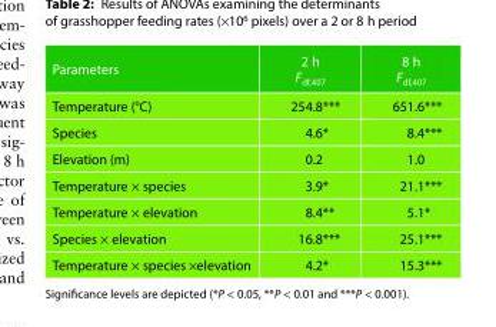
<table><thead><tr><td>Parameters</td><td>2 h F<sub>df,407</sub></td><td>8 h F<sub>df,407</sub></td></tr></thead><tbody><tr><td>Temperature (°C)</td><td>254.8***</td><td>651.6***</td></tr><tr><td>Species</td><td>4.6*</td><td>8.4***</td></tr><tr><td>Elevation (m)</td><td>0.2</td><td>1.0</td></tr><tr><td>Temperature × species</td><td>3.9*</td><td>21.1***</td></tr><tr><td>Temperature × elevation</td><td>8.4**</td><td>5.1*</td></tr><tr><td>Species × elevation</td><td>16.8***</td><td>25.1***</td></tr><tr><td>Temperature × species ×elevation</td><td>4.2*</td><td>15.3***</td></tr></tbody></table>